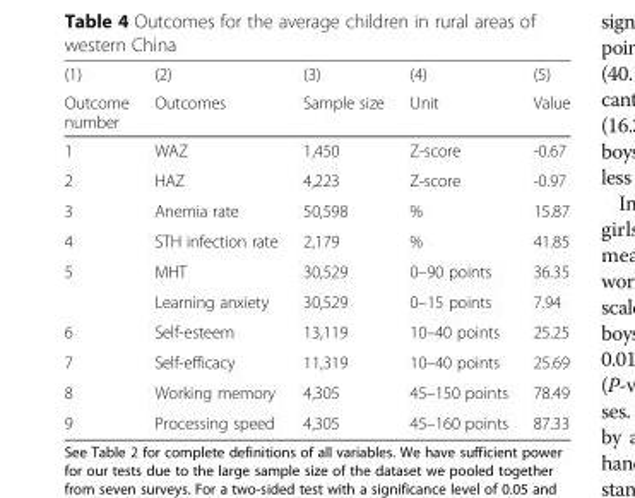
<table><thead><tr><td rowspan="2">(1) Outcome number</td><td rowspan="2">(2) Outcomes</td><td rowspan="2">(3) Sample size</td><td rowspan="2">(4) Unit</td><td rowspan="2">(5) Value</td></tr><tr></tr></thead><tbody><tr><td>1</td><td>WAZ</td><td>1,450</td><td>Z-score</td><td>-0.67</td></tr><tr><td>2</td><td>HAZ</td><td>4,223</td><td>Z-score</td><td>-0.97</td></tr><tr><td>3</td><td>Anemia rate</td><td>50,598</td><td>%</td><td>15.87</td></tr><tr><td>4</td><td>STH infection rate</td><td>2,179</td><td>%</td><td>41.85</td></tr><tr><td rowspan="2">5</td><td>MHT</td><td>30,529</td><td>0–90 points</td><td>36.35</td></tr><tr><td>Learning anxiety</td><td>30,529</td><td>0–15 points</td><td>7.94</td></tr><tr><td>6</td><td>Self-esteem</td><td>13,119</td><td>10–40 points</td><td>25.25</td></tr><tr><td>7</td><td>Self-efficacy</td><td>11,319</td><td>10–40 points</td><td>25.69</td></tr><tr><td>8</td><td>Working memory</td><td>4,305</td><td>45–150 points</td><td>78.49</td></tr><tr><td>9</td><td>Processing speed</td><td>4,305</td><td>45–160 points</td><td>87.33</td></tr></tbody></table>